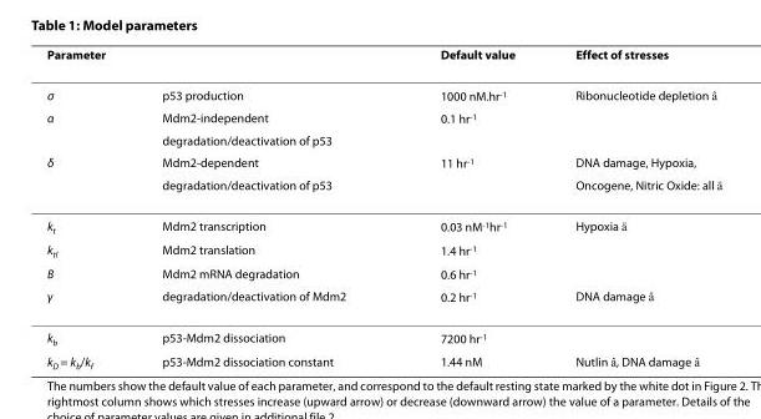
<table><thead><tr><td>Parameter</td><td></td><td>Default value</td><td>Effect of stresses</td></tr></thead><tbody><tr><td>σ</td><td>p53 production</td><td>1000 nM.hr<sup>-1</sup></td><td>Ribonucleotide depletion</td></tr><tr><td rowspan="2">α</td><td>Mdm2-independent</td><td>0.1 hr<sup>-1</sup></td><td></td></tr><tr><td>degradation/deactivation of p53</td><td></td><td></td></tr><tr><td rowspan="2">δ</td><td>Mdm2-dependent</td><td>11 hr<sup>-1</sup></td><td>DNA damage, Hypoxia,</td></tr><tr><td>degradation/deactivation of p53</td><td></td><td>Oncogene, Nitric Oxide: all</td></tr><tr><td>k<sub>t</sub></td><td>Mdm2 transcription</td><td>0.03 nM<sup>-1</sup>hr<sup>-1</sup></td><td>Hypoxia ä</td></tr><tr><td>k<sub>tl</sub></td><td>Mdm2 translation</td><td>1.4 hr<sup>-1</sup></td><td></td></tr><tr><td>B</td><td>Mdm2 mRNA degradation</td><td>0.6 hr<sup>-1</sup></td><td></td></tr><tr><td>γ</td><td>degradation/deactivation of Mdm2</td><td>0.2 hr<sup>-1</sup></td><td>DNA damage â</td></tr><tr><td>k<sub>b</sub></td><td>p53-Mdm2 dissociation</td><td>7200 hr<sup>-1</sup></td><td></td></tr><tr><td>k<sub>D</sub> = k<sub>b</sub>/k<sub>f</sub></td><td>p53-Mdm2 dissociation constant</td><td>1.44 nM</td><td>Nutlin â, DNA damage â</td></tr></tbody></table>